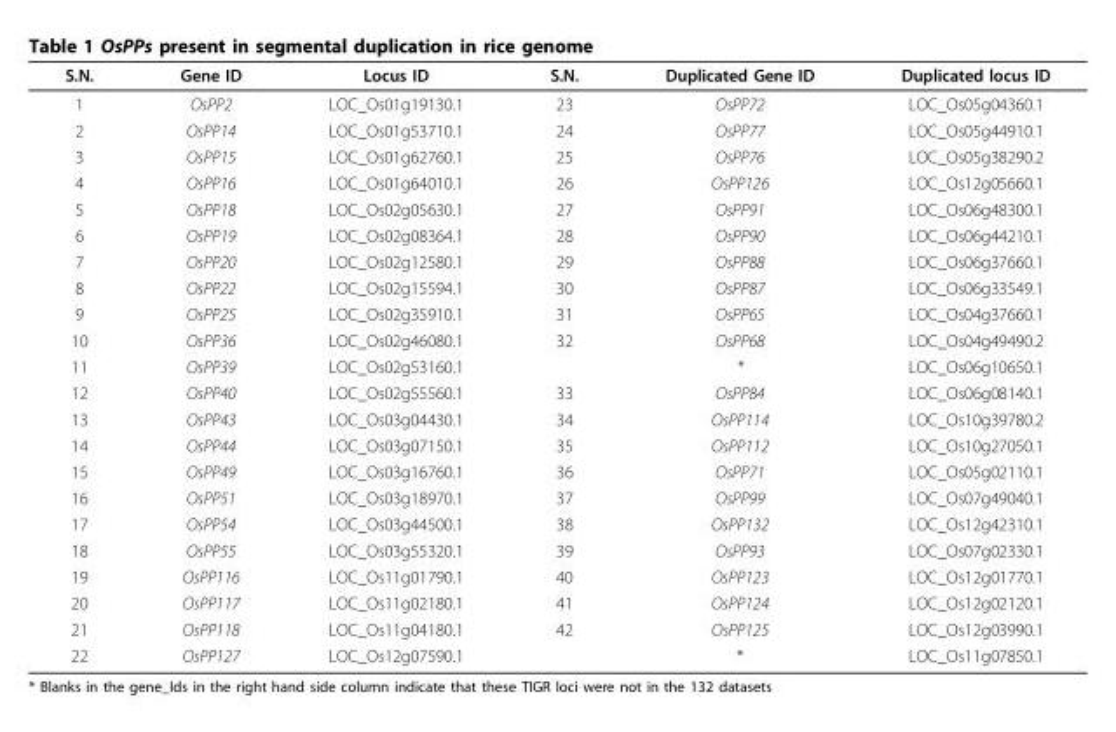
<table><thead><tr><td>S.N.</td><td>Gene ID</td><td>Locus ID</td><td>S.N.</td><td>Duplicated Gene ID</td><td>Duplicated locus ID</td></tr></thead><tbody><tr><td>1</td><td>OsPP2</td><td>LOC_Os01g19130.1</td><td>23</td><td>OsPP72</td><td>LOC_Os05g04360.1</td></tr><tr><td>2</td><td>OsPP14</td><td>LOC_Os01g53710.1</td><td>24</td><td>OsPP77</td><td>LOC_Os05g44910.1</td></tr><tr><td>3</td><td>OsPP15</td><td>LOC_Os01g62760.1</td><td>25</td><td>OsPP76</td><td>LOC_Os05g38290.2</td></tr><tr><td>4</td><td>OsPP16</td><td>LOC_Os01g64010.1</td><td>26</td><td>OsPP126</td><td>LOC_Os12g05660.1</td></tr><tr><td>5</td><td>OsPP18</td><td>LOC_Os02g05630.1</td><td>27</td><td>OsPP91</td><td>LOC_Os06g48300.1</td></tr><tr><td>6</td><td>OsPP19</td><td>LOC_Os02g08364.1</td><td>28</td><td>OsPP90</td><td>LOC_Os06g44210.1</td></tr><tr><td>7</td><td>OsPP20</td><td>LOC_Os02g12580.1</td><td>29</td><td>OsPP88</td><td>LOC_Os06g37660.1</td></tr><tr><td>8</td><td>OsPP22</td><td>LOC_Os02g15594.1</td><td>30</td><td>OsPP87</td><td>LOC_Os06g33549.1</td></tr><tr><td>9</td><td>OsPP25</td><td>LOC_Os02g35910.1</td><td>31</td><td>OsPP65</td><td>LOC_Os04g37660.1</td></tr><tr><td>10</td><td>OsPP36</td><td>LOC_Os02g46080.1</td><td>32</td><td>OsPP68</td><td>LOC_Os04g49490.2</td></tr><tr><td>11</td><td>OsPP39</td><td>LOC_Os02g53160.1</td><td></td><td>*</td><td>LOC_Os06g10650.1</td></tr><tr><td>12</td><td>OsPP40</td><td>LOC_Os02g55560.1</td><td>33</td><td>OsPP84</td><td>LOC_Os06g08140.1</td></tr><tr><td>13</td><td>OsPP43</td><td>LOC_Os03g04430.1</td><td>34</td><td>OsPP114</td><td>LOC_Os10g39780.2</td></tr><tr><td>14</td><td>OsPP44</td><td>LOC_Os03g07150.1</td><td>35</td><td>OsPP112</td><td>LOC_Os10g27050.1</td></tr><tr><td>15</td><td>OsPP49</td><td>LOC_Os03g16760.1</td><td>36</td><td>OsPP71</td><td>LOC_Os05g02110.1</td></tr><tr><td>16</td><td>OsPP51</td><td>LOC_Os03g18970.1</td><td>37</td><td>OsPP99</td><td>LOC_Os07g49040.1</td></tr><tr><td>17</td><td>OsPP54</td><td>LOC_Os03g44500.1</td><td>38</td><td>OsPP132</td><td>LOC_Os12g42310.1</td></tr><tr><td>18</td><td>OsPP55</td><td>LOC_Os03g55320.1</td><td>39</td><td>OsPP93</td><td>LOC_Os07g02330.1</td></tr><tr><td>19</td><td>OsPP116</td><td>LOC_Os11g01790.1</td><td>40</td><td>OsPP123</td><td>LOC_Os12g01770.1</td></tr><tr><td>20</td><td>OsPP117</td><td>LOC_Os11g02180.1</td><td>41</td><td>OsPP124</td><td>LOC_Os12g02120.1</td></tr><tr><td>21</td><td>OsPP118</td><td>LOC_Os11g04180.1</td><td>42</td><td>OsPP125</td><td>LOC_Os12g03990.1</td></tr><tr><td>22</td><td>OsPP127</td><td>LOC_Os12g07590.1</td><td></td><td>*</td><td>LOC_Os11g07850.1</td></tr></tbody></table>